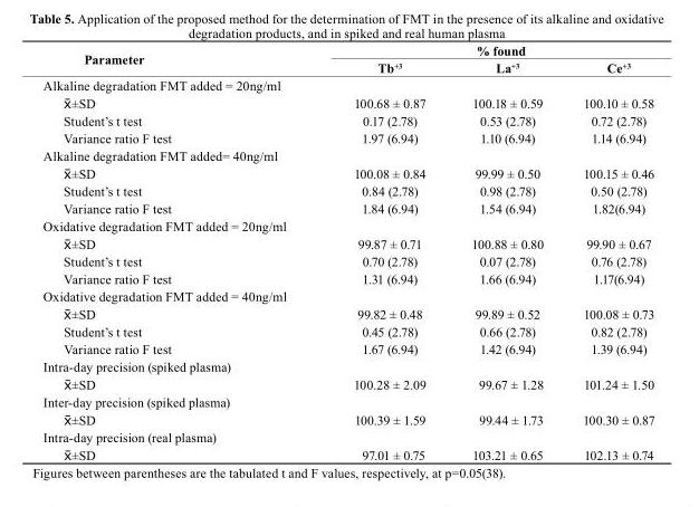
<table><thead><tr><td rowspan="2">parameter</td><td colspan="3">% found</td></tr><tr><td>Tb<sup>+3</sup></td><td>La<sup>+3</sup></td><td>ce<sup>+3</sup></td></tr></thead><tbody><tr><td colspan="4">Alkaline degradation FMT added = 20ng/ml</td></tr><tr><td>X±SD</td><td>100.68 ± 0.87</td><td>100.18 ± 0.59</td><td>100.10 ± 0.58</td></tr><tr><td>Student’s t test</td><td>0.17 (2.78)</td><td>0.53 (2.78)</td><td>0.72 (2.78)</td></tr><tr><td>Variance ratio F test</td><td>1.97 (6.94)</td><td>1.10 (6.94)</td><td>1.14 (6.94)</td></tr><tr><td colspan="4">Alkaline degradation FMT added= 40ng/ml</td></tr><tr><td>X±SD</td><td>100.08 ± 0.84</td><td>99.99 ± 0.50</td><td>100.15 ± 0.46</td></tr><tr><td>Student’s t test</td><td>0.84 (2.78)</td><td>0.98 (2.78)</td><td>0.50 (2.78)</td></tr><tr><td>Variance ratio F test</td><td>1.84 (6.94)</td><td>1.54 (6.94)</td><td>1.82(6.94)</td></tr><tr><td colspan="4">Oxidative degradation FMT added = 20ng/ml</td></tr><tr><td>X±SD</td><td>99.87 ± 0.71</td><td>100.88 ± 0.80</td><td>99.90 ± 0.67</td></tr><tr><td>Student’s t test</td><td>0.70 (2.78)</td><td>0.07 (2.78)</td><td>0.76 (2.78)</td></tr><tr><td>Variance ratio F test</td><td>1.31 (6.94)</td><td>1.66 (6.94)</td><td>1.17(6.94)</td></tr><tr><td colspan="4">Oxidative degradation FMT added = 40ng/ml</td></tr><tr><td>X±SD</td><td>99.82 ± 0.48</td><td>99.89 ± 0.52</td><td>100.08 ± 0.73</td></tr><tr><td>Student’s t test</td><td>0.45 (2.78)</td><td>0.66 (2.78)</td><td>0.82 (2.78)</td></tr><tr><td>Variance ratio F test</td><td>1.67 (6.94)</td><td>1.42 (6.94)</td><td>1.39 (6.94)</td></tr><tr><td colspan="4">Intra-day precision (spiked plasma)</td></tr><tr><td>X±SD</td><td>100.28 ± 2.09</td><td>99.67 ± 1.28</td><td>101.24 ± 1.50</td></tr><tr><td colspan="4">Inter-day precision (spiked plasma)</td></tr><tr><td>X±SD</td><td>100.39 ± 1.59</td><td>99.44 ± 1.73</td><td>100.30 ± 0.87</td></tr><tr><td colspan="4">Intra-day precision (real plasma)</td></tr><tr><td>X±SD</td><td>97.01 ± 0.75</td><td>103.21 ± 0.65</td><td>102.13 ± 0.74</td></tr></tbody></table>